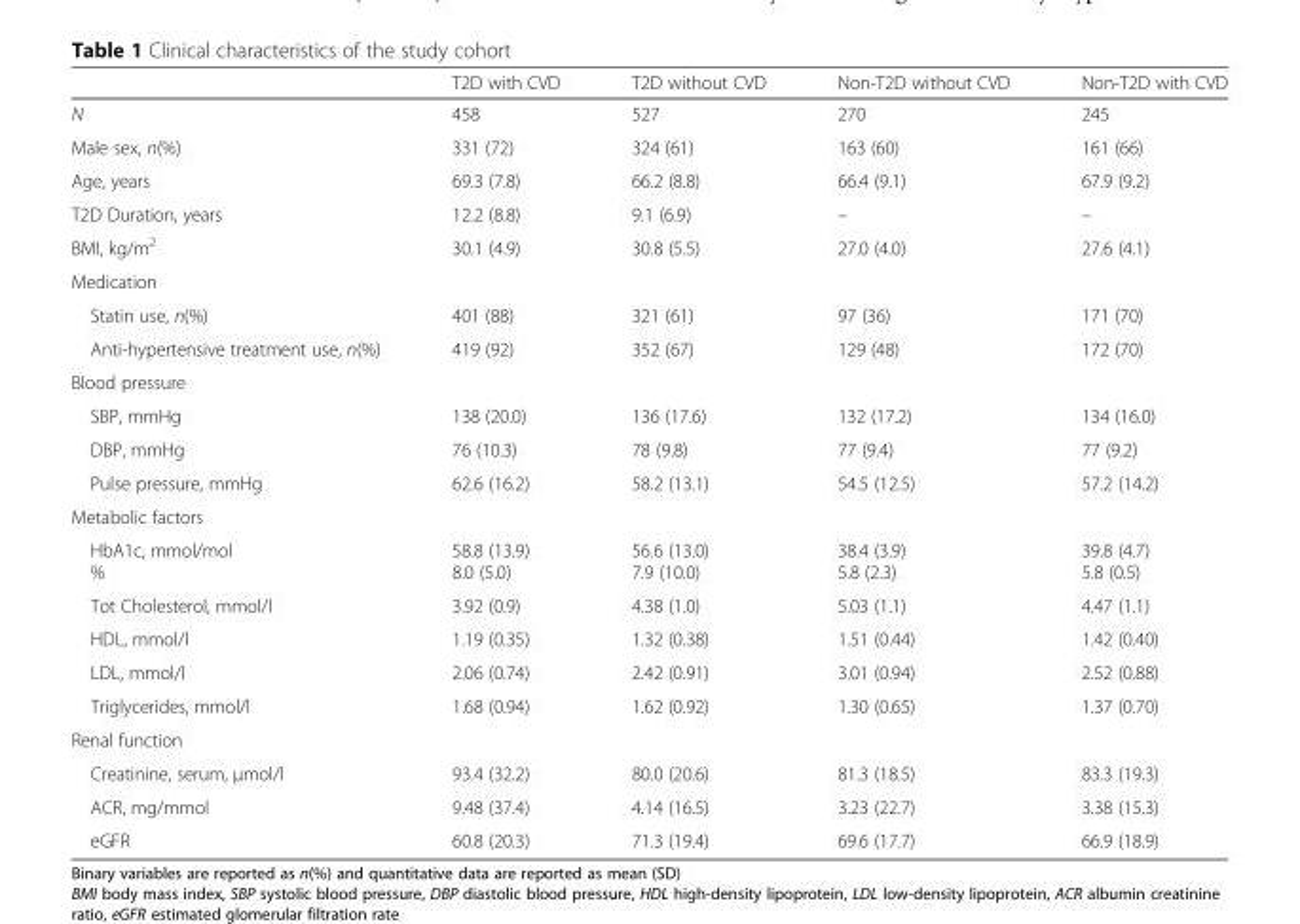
<table><thead><tr><td></td><td>T2D with CVD</td><td>T2D without CVD</td><td>Non-T2D without CVD</td><td>Non-T2D with CVD</td></tr></thead><tbody><tr><td>N</td><td>458</td><td>527</td><td>270</td><td>245</td></tr><tr><td>Male sex, n(%)</td><td>331 (72)</td><td>324 (61)</td><td>163 (60)</td><td>161 (66)</td></tr><tr><td>Age, years</td><td>69.3 (7.8)</td><td>66.2 (8.8)</td><td>66.4 (9.1)</td><td>67.9 (9.2)</td></tr><tr><td>T2D Duration, years</td><td>12.2 (8.8)</td><td>9.1 (6.9)</td><td>–</td><td>–</td></tr><tr><td>BMI, kg/m<sup>2</sup></td><td>30.1 (4.9)</td><td>30.8 (5.5)</td><td>27.0 (4.0)</td><td>27.6 (4.1)</td></tr><tr><td colspan="5">Medication</td></tr><tr><td>Statin use, n(%)</td><td>401 (88)</td><td>321 (61)</td><td>97 (36)</td><td>171 (70)</td></tr><tr><td>Anti-hypertensive treatment use, n(%)</td><td>419 (92)</td><td>352 (67)</td><td>129 (48)</td><td>172 (70)</td></tr><tr><td colspan="5">Blood pressure</td></tr><tr><td>SBP, mmHg</td><td>138 (20.0)</td><td>136 (17.6)</td><td>132 (17.2)</td><td>134 (16.0)</td></tr><tr><td>DBP, mmHg</td><td>76 (10.3)</td><td>78 (9.8)</td><td>77 (9.4)</td><td>77 (9.2)</td></tr><tr><td>Pulse pressure, mmHg</td><td>62.6 (16.2)</td><td>58.2 (13.1)</td><td>54.5 (12.5)</td><td>57.2 (14.2)</td></tr><tr><td colspan="5">Metabolic factors</td></tr><tr><td>HbA1c, mmol/mol %</td><td>58.8 (13.9) 8.0 (5.0)</td><td>56.6 (13.0) 7.9 (10.0)</td><td>38.4 (3.9) 5.8 (2.3)</td><td>39.8 (4.7) 5.8 (0.5)</td></tr><tr><td>Tot Cholesterol, mmol/l</td><td>3.92 (0.9)</td><td>4.38 (1.0)</td><td>5.03 (1.1)</td><td>4.47 (1.1)</td></tr><tr><td>HDL, mmol/l</td><td>1.19 (0.35)</td><td>1.32 (0.38)</td><td>1.51 (0.44)</td><td>1.42 (0.40)</td></tr><tr><td>LDL, mmol/l</td><td>2.06 (0.74)</td><td>2.42 (0.91)</td><td>3.01 (0.94)</td><td>2.52 (0.88)</td></tr><tr><td>Triglycerides, mmol/l</td><td>1.68 (0.94)</td><td>1.62 (0.92)</td><td>1.30 (0.65)</td><td>1.37 (0.70)</td></tr><tr><td colspan="5">Renal function</td></tr><tr><td>Creatinine, serum, μmol/l</td><td>93.4 (32.2)</td><td>80.0 (20.6)</td><td>81.3 (18.5)</td><td>83.3 (19.3)</td></tr><tr><td>ACR, mg/mmol</td><td>9.48 (37.4)</td><td>4.14 (16.5)</td><td>3.23 (22.7)</td><td>3.38 (15.3)</td></tr><tr><td>eGFR</td><td>60.8 (20.3)</td><td>71.3 (19.4)</td><td>69.6 (17.7)</td><td>66.9 (18.9)</td></tr></tbody></table>